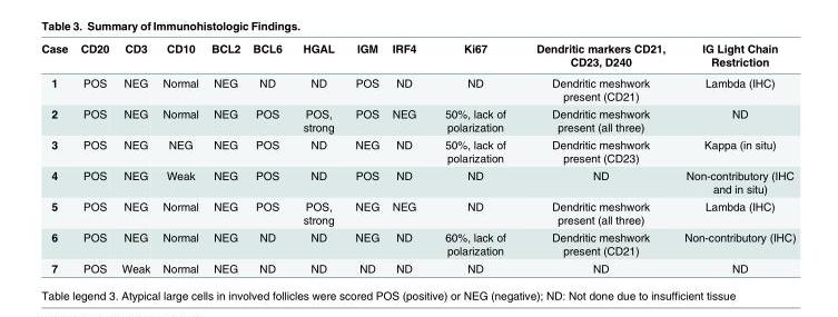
<table><thead><tr><td>Case</td><td>CD20</td><td>CD3</td><td>CD10</td><td>BCL2</td><td>BCL6</td><td>HGAL</td><td>IGM</td><td>IRF4</td><td>Ki67</td><td>Dendritic markers CD21, CD23, D240</td><td>IG Light Chain Restriction</td></tr></thead><tbody><tr><td>1</td><td>POS</td><td>NEG</td><td>Normal</td><td>NEG</td><td>ND</td><td>ND</td><td>POS</td><td>ND</td><td>ND</td><td>Dendritic meshwork present (CD21)</td><td>Lambda (IHC)</td></tr><tr><td>2</td><td>POS</td><td>NEG</td><td>Normal</td><td>NEG</td><td>POS</td><td>POS, strong</td><td>POS</td><td>NEG</td><td>50%, lack of polarization</td><td>Dendritic meshwork present (all three)</td><td>ND</td></tr><tr><td>3</td><td>POS</td><td>NEG</td><td>NEG</td><td>NEG</td><td>POS</td><td>ND</td><td>NEG</td><td>ND</td><td>50%, lack of polarization</td><td>Dendritic meshwork present (CD23)</td><td>Kappa (in situ)</td></tr><tr><td>4</td><td>POS</td><td>NEG</td><td>Weak</td><td>NEG</td><td>POS</td><td>ND</td><td>POS</td><td>ND</td><td>ND</td><td>ND</td><td>Non-contributory (IHC and in situ)</td></tr><tr><td>5</td><td>POS</td><td>NEG</td><td>Normal</td><td>NEG</td><td>POS</td><td>POS, strong</td><td>NEG</td><td>NEG</td><td>ND</td><td>Dendritic meshwork present (all three)</td><td>Lambda (IHC)</td></tr><tr><td>6</td><td>POS</td><td>NEG</td><td>Normal</td><td>NEG</td><td>ND</td><td>ND</td><td>NEG</td><td>ND</td><td>60%, lack of polarization</td><td>Dendritic meshwork present (CD21)</td><td>Non-contributory (IHC)</td></tr><tr><td>7</td><td>POS</td><td>Weak</td><td>Normal</td><td>NEG</td><td>ND</td><td>ND</td><td>ND</td><td>ND</td><td>ND</td><td>ND</td><td>ND</td></tr></tbody></table>